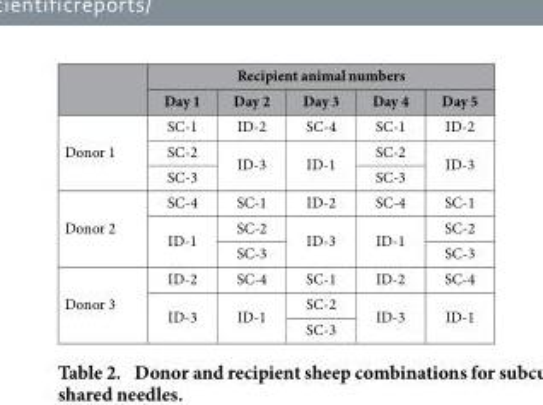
<table><thead><tr><td rowspan="2"></td><td colspan="5">Recipient animal numbers</td></tr><tr><td>Day 1</td><td>Day 2</td><td>Day 3</td><td>Day 4</td><td>Day 5</td></tr></thead><tbody><tr><td rowspan="3">Donor 1</td><td>SC-1</td><td>ID-2</td><td>SC-4</td><td>SC-1</td><td>ID-2</td></tr><tr><td>SC-2</td><td rowspan="2">ID-3</td><td rowspan="2">ID-1</td><td>SC-2</td><td rowspan="2">ID-3</td></tr><tr><td>SC-3</td><td>SC-3</td></tr><tr><td rowspan="3">Donor 2</td><td>SC-4</td><td>SC-1</td><td>ID-2</td><td>SC-4</td><td>SC-1</td></tr><tr><td rowspan="2">ID-1</td><td>SC-2</td><td rowspan="2">ID-3</td><td rowspan="2">ID-1</td><td>SC-2</td></tr><tr><td>SC-3</td><td>SC-3</td></tr><tr><td rowspan="3">Donor 3</td><td>ID-2</td><td>SC-4</td><td>SC-1</td><td>ID-2</td><td>SC-4</td></tr><tr><td rowspan="2">ID-3</td><td rowspan="2">ID-1</td><td>SC-2</td><td rowspan="2">ID-3</td><td rowspan="2">ID-1</td></tr><tr><td>SC-3</td></tr></tbody></table>